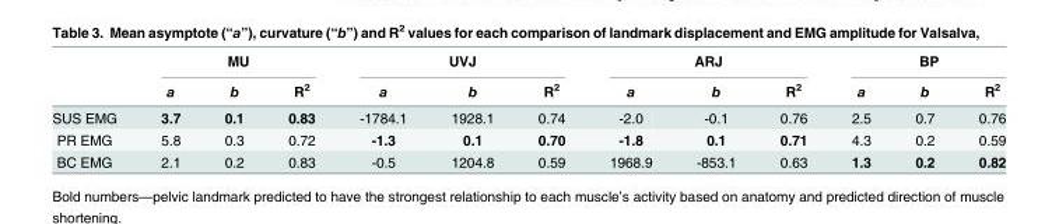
<table><thead><tr><td rowspan="2"></td><td colspan="3">MU</td><td colspan="3">UVJ</td><td colspan="3">ARJ</td><td colspan="3">BP</td></tr><tr><td>a</td><td>b</td><td>R<sup>2</sup></td><td>a</td><td>b</td><td>R<sup>2</sup></td><td>a</td><td>b</td><td>R<sup>2</sup></td><td>a</td><td>b</td><td>R<sup>2</sup></td></tr></thead><tbody><tr><td>SUS EMG</td><td>3.7</td><td>0.1</td><td>0.83</td><td>-1784.1</td><td>1928.1</td><td>0.74</td><td>-2.0</td><td>-0.1</td><td>0.76</td><td>2.5</td><td>0.7</td><td>0.76</td></tr><tr><td>PR EMG</td><td>5.8</td><td>0.3</td><td>0.72</td><td>-1.3</td><td>0.1</td><td>0.70</td><td>-1.8</td><td>0.1</td><td>0.71</td><td>4.3</td><td>0.2</td><td>0.59</td></tr><tr><td>BC EMG</td><td>2.1</td><td>0.2</td><td>0.83</td><td>-0.5</td><td>1204.8</td><td>0.59</td><td>1968.9</td><td>-853.1</td><td>0.63</td><td>1.3</td><td>0.2</td><td>0.82</td></tr></tbody></table>